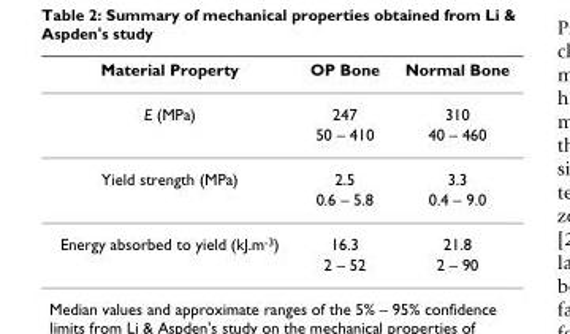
<table><thead><tr><td>Material Property</td><td>OP Bone</td><td>Normal Bone</td></tr></thead><tbody><tr><td rowspan="2">E (MPa)</td><td>247</td><td>310</td></tr><tr><td>50 – 410</td><td>40 – 460</td></tr><tr><td rowspan="2">Yield strength (MPa)</td><td>2.5</td><td>3.3</td></tr><tr><td>0.6 – 5.8</td><td>0.4 – 9.0</td></tr><tr><td rowspan="2">Energy absorbed to yield (kJ.m<sup>-3</sup>)</td><td>16.3</td><td>21.8</td></tr><tr><td>2 – 52</td><td>2 – 90</td></tr></tbody></table>